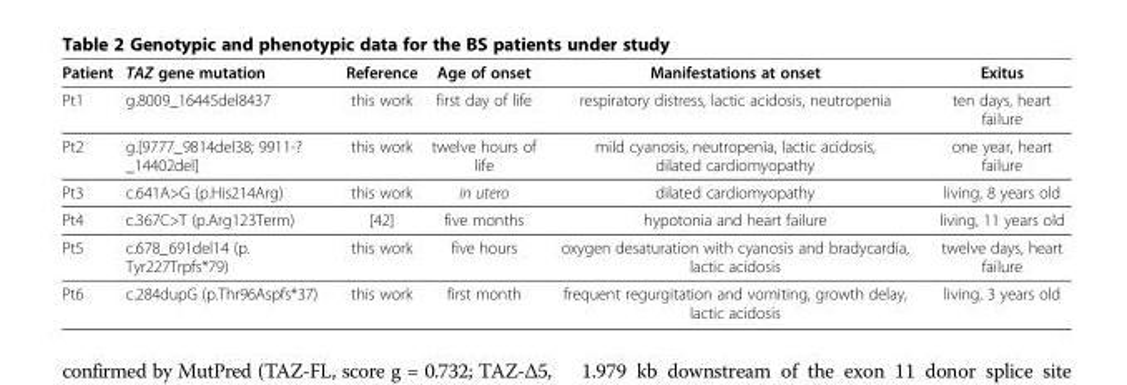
<table><thead><tr><td>Patient</td><td>TAZ gene mutation</td><td>Reference</td><td>Age of onset</td><td>Manifestations at onset</td><td>Exitus</td></tr></thead><tbody><tr><td>Pt1</td><td>g.8009_16445del8437</td><td>this work</td><td>first day of life</td><td>respiratory distress, lactic acidosis, neutropenia</td><td>ten days, heart failure</td></tr><tr><td>Pt2</td><td>g.[9777_9814del38; 9911-? _14402del]</td><td>this work</td><td>twelve hours of life</td><td>mild cyanosis, neutropenia, lactic acidosis, dilated cardiomyopathy</td><td>one year, heart failure</td></tr><tr><td>Pt3</td><td>c.641A&gt;G (p.His214Arg)</td><td>this work</td><td>in utero</td><td>dilated cardiomyopathy</td><td>living, 8 years old</td></tr><tr><td>Pt4</td><td>c.367C&gt;T (p.Arg123Term)</td><td>[42]</td><td>five months</td><td>hypotonia and heart failure</td><td>living, 11 years old</td></tr><tr><td>Pt5</td><td>c.678_691del14 (p. Tyr227Trpfs*79)</td><td>this work</td><td>five hours</td><td>oxygen desaturation with cyanosis and bradycardia, lactic acidosis</td><td>twelve days, heart failure</td></tr><tr><td>Pt6</td><td>c.284dupG (p.Thr96Aspfs*37)</td><td>this work</td><td>first month</td><td>frequent regurgitation and vomiting, growth delay, lactic acidosis</td><td>living, 3 years old</td></tr></tbody></table>